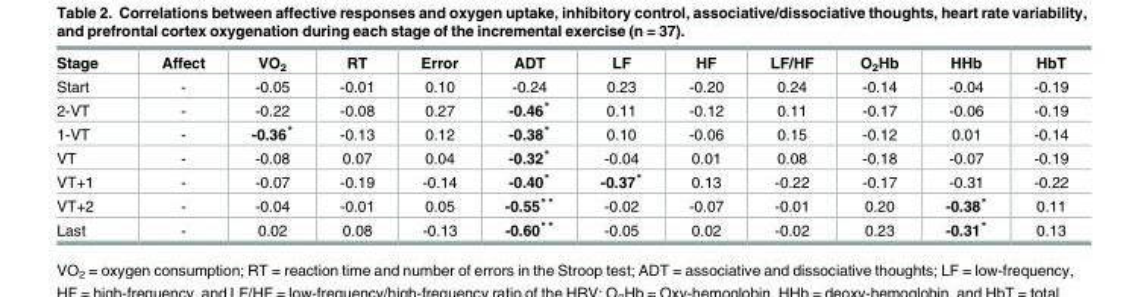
<table><thead><tr><td>Stage</td><td>Affect</td><td>VO<sub>2</sub></td><td>RT</td><td>Error</td><td>ADT</td><td>LF</td><td>HF</td><td>LF/HF</td><td>O<sub>2</sub>Hb</td><td>HHb</td><td>HbT</td></tr></thead><tbody><tr><td>Start</td><td>-</td><td>-0.05</td><td>-0.01</td><td>0.10</td><td>-0.24</td><td>0.23</td><td>-0.20</td><td>0.24</td><td>-0.14</td><td>-0.04</td><td>-0.19</td></tr><tr><td>2-VT</td><td>-</td><td>-0.22</td><td>-0.08</td><td>0.27</td><td>-0.46*</td><td>0.11</td><td>-0.12</td><td>0.11</td><td>-0.17</td><td>-0.06</td><td>-0.19</td></tr><tr><td>1-VT</td><td>-</td><td>-0.36*</td><td>-0.13</td><td>0.12</td><td>-0.38*</td><td>0.10</td><td>-0.06</td><td>0.15</td><td>-0.12</td><td>0.01</td><td>-0.14</td></tr><tr><td>VT</td><td>-</td><td>-0.08</td><td>0.07</td><td>0.04</td><td>-0.32*</td><td>-0.04</td><td>0.01</td><td>0.08</td><td>-0.18</td><td>-0.07</td><td>-0.19</td></tr><tr><td>VT+1</td><td>-</td><td>-0.07</td><td>-0.19</td><td>-0.14</td><td>-0.40*</td><td>-0.37*</td><td>0.13</td><td>-0.22</td><td>-0.17</td><td>-0.31</td><td>-0.22</td></tr><tr><td>VT+2</td><td>-</td><td>-0.04</td><td>-0.01</td><td>0.05</td><td>-0.55**</td><td>-0.02</td><td>-0.07</td><td>-0.01</td><td>0.20</td><td>-0.38*</td><td>0.11</td></tr><tr><td>Last</td><td>-</td><td>0.02</td><td>0.08</td><td>-0.13</td><td>-0.60**</td><td>-0.05</td><td>0.02</td><td>-0.02</td><td>0.23</td><td>-0.31*</td><td>0.13</td></tr></tbody></table>